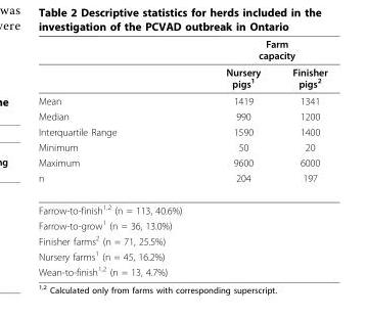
<table><thead><tr><td rowspan="2"></td><td colspan="2">Farm capacity</td></tr><tr><td>Nursery pigs<sup>1</sup></td><td>Finisher pigs<sup>2</sup></td></tr></thead><tbody><tr><td>Mean</td><td>1419</td><td>1341</td></tr><tr><td>Median</td><td>990</td><td>1200</td></tr><tr><td>Interquartile Range</td><td>1590</td><td>1400</td></tr><tr><td>Minimum</td><td>50</td><td>20</td></tr><tr><td>Maximum</td><td>9600</td><td>6000</td></tr><tr><td>n</td><td>204</td><td>197</td></tr><tr><td colspan="3">Farrow-to-finish<sup>1,2</sup> (n = 113, 40.6%)</td></tr><tr><td colspan="3">Farrow-to-grow<sup>1</sup> (n = 36, 13.0%)</td></tr><tr><td colspan="3">Finisher farms<sup>2</sup> (n = 71, 25.5%)</td></tr><tr><td colspan="3">Nursery farms<sup>1</sup> (n = 45, 16.2%)</td></tr><tr><td>Wean-to-finish<sup>1,2</sup> (n = 13, 4.7%)</td><td></td><td></td></tr></tbody></table>